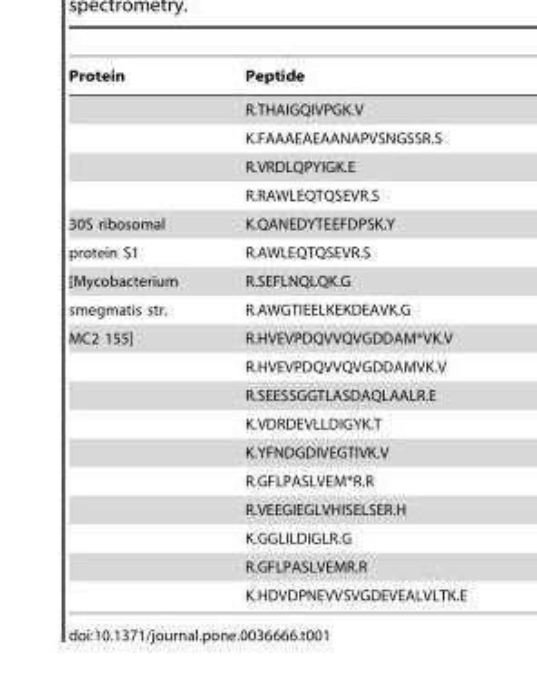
<table><thead><tr><td>Protein</td><td>Peptide</td></tr></thead><tbody><tr><td></td><td>R.THAIGQIVPGK.V</td></tr><tr><td></td><td>K.FAAAEAEAANAPVSNGSSR.S</td></tr><tr><td></td><td>R.VRDLQPYIGK.E</td></tr><tr><td></td><td>R.RAWLEQTQSEVR.S</td></tr><tr><td>30S ribosomal</td><td>K.QANEDYTEEFDPSK.Y</td></tr><tr><td>protein S1</td><td>R.AWLEQTQSEVR.S</td></tr><tr><td>[Mycobacterium</td><td>R.SEFLNQLQK.G</td></tr><tr><td>smegmatis str.</td><td>R.AWGTIEELKEKDEAVK.G</td></tr><tr><td rowspan="10">MC2 155]</td><td>R.HVEVPDQVVQVGDDAM*VK.V</td></tr><tr><td>R.HVEVPDQVVQVGDDAMVK.V</td></tr><tr><td>R.SEESSGGTLASDAQLAALR.E</td></tr><tr><td>K.VDRDEVLLDIGYK.T</td></tr><tr><td>K.YFNDGDIVEGTIVK.V</td></tr><tr><td>R.GFLPASLVEM*R.R</td></tr><tr><td>R.VEEGIEGLVHISELSER.H</td></tr><tr><td>K.GGLILDIGLR.G</td></tr><tr><td>R.GFLPASLVEMR.R</td></tr><tr><td>K.HDVDPNEVVSVGDEVEALVLTK.E</td></tr></tbody></table>